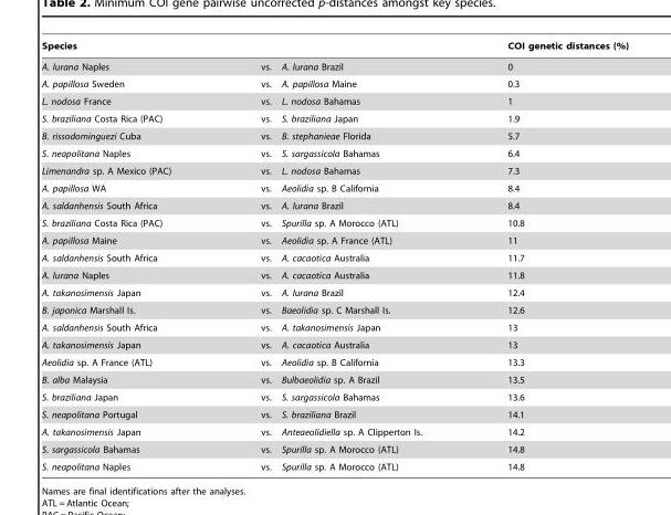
<table><thead><tr><td>Species</td><td></td><td></td><td>COI genetic distances (%)</td></tr></thead><tbody><tr><td>A. lurana Naples</td><td>vs.</td><td>A. lurana Brazil</td><td>0</td></tr><tr><td>A. papillosa Sweden</td><td>vs.</td><td>A. papillosa Maine</td><td>0.3</td></tr><tr><td>L. nodosa France</td><td>vs.</td><td>L. nodosa Bahamas</td><td>1</td></tr><tr><td>S. braziliana Costa Rica (PAC)</td><td>vs.</td><td>S. braziliana Japan</td><td>1.9</td></tr><tr><td>B. rissodominguezi Cuba</td><td>vs.</td><td>B. stephanieae Florida</td><td>5.7</td></tr><tr><td>S. neapolitana Naples</td><td>vs.</td><td>S. sargassicola Bahamas</td><td>6.4</td></tr><tr><td>Limenandra sp. A Mexico (PAC)</td><td>vs.</td><td>L. nodosa Bahamas</td><td>7.3</td></tr><tr><td>A. papillosa WA</td><td>vs.</td><td>Aeolidia sp. B California</td><td>8.4</td></tr><tr><td>A. saldanhensis South Africa</td><td>vs.</td><td>A. lurana Brazil</td><td>8.4</td></tr><tr><td>S. braziliana Costa Rica (PAC)</td><td>vs.</td><td>Spurilla sp. A Morocco (ATL)</td><td>10.8</td></tr><tr><td>A. papillosa Maine</td><td>vs.</td><td>Aeolidia sp. A France (ATL)</td><td>11</td></tr><tr><td>A. saldanhensis South Africa</td><td>vs.</td><td>A. cacaotica Australia</td><td>11.7</td></tr><tr><td>A. lurana Naples</td><td>vs.</td><td>A. cacaotica Australia</td><td>11.8</td></tr><tr><td>A. takanosimensis Japan</td><td>vs.</td><td>A. lurana Brazil</td><td>12.4</td></tr><tr><td>B. japonica Marshall Is.</td><td>vs.</td><td>Baeolidia sp. C Marshall Is.</td><td>12.6</td></tr><tr><td>A. saldanhensis South Africa</td><td>vs.</td><td>A. takanosimensis Japan</td><td>13</td></tr><tr><td>A. takanosimensis Japan</td><td>vs.</td><td>A. cacaotica Australia</td><td>13</td></tr><tr><td>Aeolidia sp. A France (ATL)</td><td>vs.</td><td>Aeolidia sp. B California</td><td>13.3</td></tr><tr><td>B. alba Malaysia</td><td>vs.</td><td>Bulbaeolidia sp. A Brazil</td><td>13.5</td></tr><tr><td>S. braziliana Japan</td><td>vs.</td><td>S. sargassicola Bahamas</td><td>13.6</td></tr><tr><td>S. neapolitana Portugal</td><td>vs.</td><td>S. braziliana Brazil</td><td>14.1</td></tr><tr><td>A. takanosimensis Japan</td><td>vs.</td><td>Anteaeolidiella sp. A Clipperton Is.</td><td>14.2</td></tr><tr><td>S. sargassicola Bahamas</td><td>vs.</td><td>Spurilla sp. A Morocco (ATL)</td><td>14.8</td></tr><tr><td>S. neapolitana Naples</td><td>vs.</td><td>Spurilla sp. A Morocco (ATL)</td><td>14.8</td></tr></tbody></table>